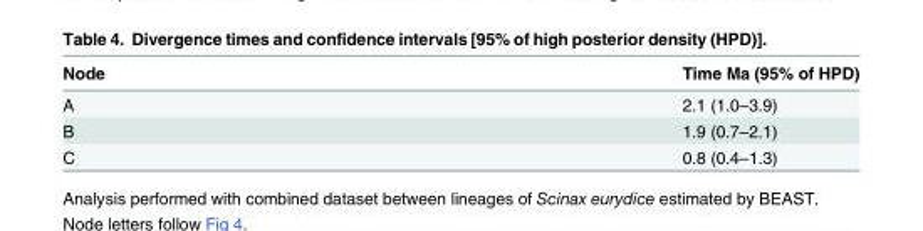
<table><thead><tr><td>Node</td><td>Time Ma (95% of HPD)</td></tr></thead><tbody><tr><td>A</td><td>2.1 (1.0–3.9)</td></tr><tr><td>B</td><td>1.9 (0.7–2.1)</td></tr><tr><td>C</td><td>0.8 (0.4–1.3)</td></tr></tbody></table>